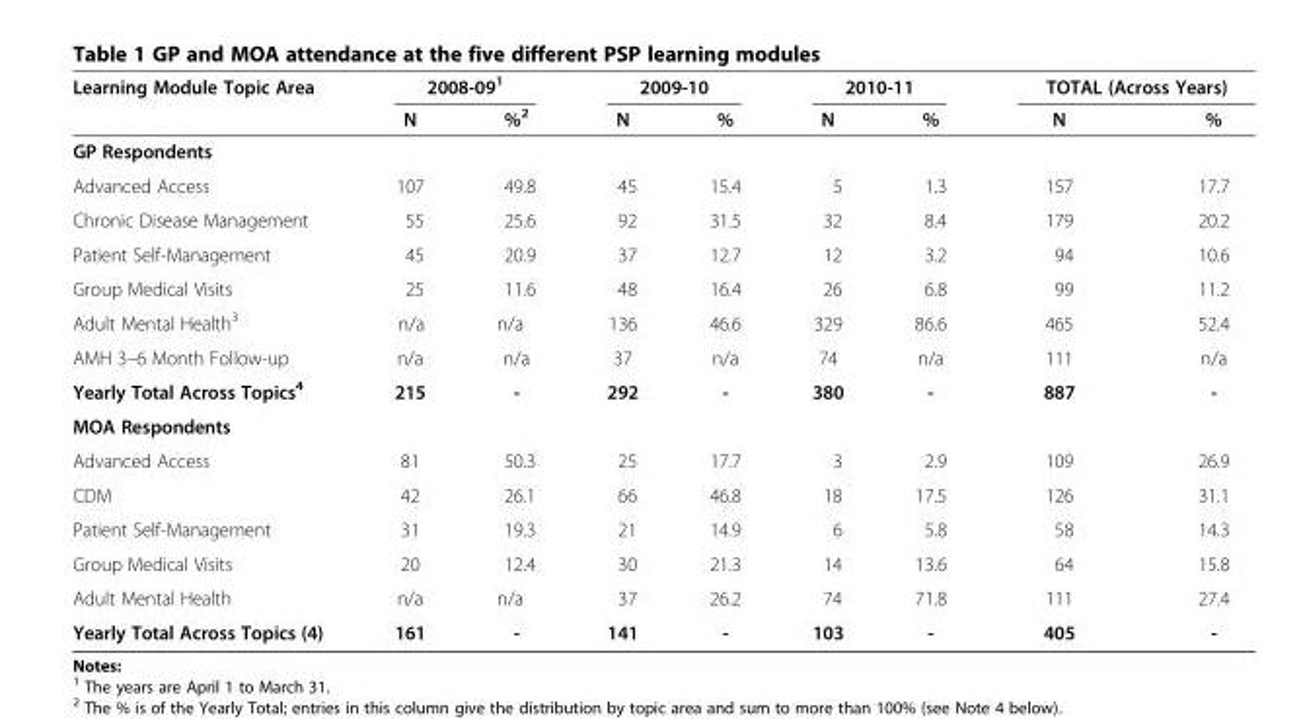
<table><thead><tr><td rowspan="2">Learning Module Topic Area</td><td colspan="2">2008-09<sup>1</sup></td><td colspan="2">2009-10</td><td colspan="2">2010-11</td><td colspan="2">TOTAL (Across Years)</td></tr><tr><td>N</td><td>%<sup>2</sup></td><td>N</td><td>%</td><td>N</td><td>%</td><td>N</td><td>%</td></tr></thead><tbody><tr><td colspan="9">GP Respondents</td></tr><tr><td>Advanced Access</td><td>107</td><td>49.8</td><td>45</td><td>15.4</td><td>5</td><td>1.3</td><td>157</td><td>17.7</td></tr><tr><td>Chronic Disease Management</td><td>55</td><td>25.6</td><td>92</td><td>31.5</td><td>32</td><td>8.4</td><td>179</td><td>20.2</td></tr><tr><td>Patient Self-Management</td><td>45</td><td>20.9</td><td>37</td><td>12.7</td><td>12</td><td>3.2</td><td>94</td><td>10.6</td></tr><tr><td>Group Medical Visits</td><td>25</td><td>11.6</td><td>48</td><td>16.4</td><td>26</td><td>6.8</td><td>99</td><td>11.2</td></tr><tr><td>Adult Mental Health<sup>3</sup></td><td>n/a</td><td>n/a</td><td>136</td><td>46.6</td><td>329</td><td>86.6</td><td>465</td><td>52.4</td></tr><tr><td>AMH 3–6 Month Follow-up</td><td>n/a</td><td>n/a</td><td>37</td><td>n/a</td><td>74</td><td>n/a</td><td>111</td><td>n/a</td></tr><tr><td>Yearly Total Across Topics<sup>4</sup></td><td>215</td><td>-</td><td>292</td><td>-</td><td>380</td><td>-</td><td>887</td><td>-</td></tr><tr><td colspan="9">MOA Respondents</td></tr><tr><td>Advanced Access</td><td>81</td><td>50.3</td><td>25</td><td>17.7</td><td>3</td><td>2.9</td><td>109</td><td>26.9</td></tr><tr><td>CDM</td><td>42</td><td>26.1</td><td>66</td><td>46.8</td><td>18</td><td>17.5</td><td>126</td><td>31.1</td></tr><tr><td>Patient Self-Management</td><td>31</td><td>19.3</td><td>21</td><td>14.9</td><td>6</td><td>5.8</td><td>58</td><td>14.3</td></tr><tr><td>Group Medical Visits</td><td>20</td><td>12.4</td><td>30</td><td>21.3</td><td>14</td><td>13.6</td><td>64</td><td>15.8</td></tr><tr><td>Adult Mental Health</td><td>n/a</td><td>n/a</td><td>37</td><td>26.2</td><td>74</td><td>71.8</td><td>111</td><td>27.4</td></tr><tr><td>Yearly Total Across Topics (4)</td><td>161</td><td>-</td><td>141</td><td>-</td><td>103</td><td>-</td><td>405</td><td>-</td></tr></tbody></table>